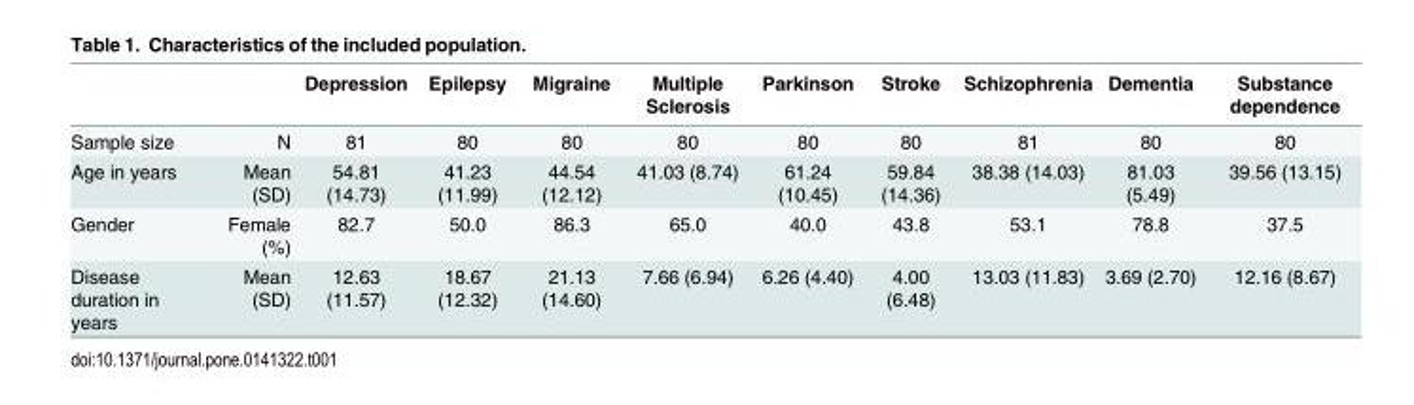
<table><thead><tr><td></td><td></td><td>Depression</td><td>Epilepsy</td><td>Migraine</td><td>Multiple Sclerosis</td><td>Parkinson</td><td>Stroke</td><td>Schizophrenia</td><td>Dementia</td><td>Substance dependence</td></tr></thead><tbody><tr><td>Sample size</td><td>N</td><td>81</td><td>80</td><td>80</td><td>80</td><td>80</td><td>80</td><td>81</td><td>80</td><td>80</td></tr><tr><td>Age in years</td><td>Mean (SD)</td><td>54.81 (14.73)</td><td>41.23 (11.99)</td><td>44.54 (12.12)</td><td>41.03 (8.74)</td><td>61.24 (10.45)</td><td>59.84 (14.36)</td><td>38.38 (14.03)</td><td>81.03 (5.49)</td><td>39.56 (13.15)</td></tr><tr><td>Gender</td><td>Female (%)</td><td>82.7</td><td>50.0</td><td>86.3</td><td>65.0</td><td>40.0</td><td>43.8</td><td>53.1</td><td>78.8</td><td>37.5</td></tr><tr><td>Disease duration in years</td><td>Mean (SD)</td><td>12.63 (11.57)</td><td>18.67 (12.32)</td><td>21.13 (14.60)</td><td>7.66 (6.94)</td><td>6.26 (4.40)</td><td>4.00 (6.48)</td><td>13.03 (11.83)</td><td>3.69 (2.70)</td><td>12.16 (8.67)</td></tr></tbody></table>